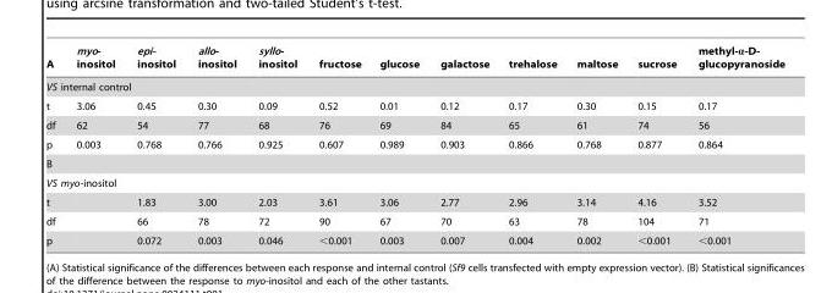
<table><thead><tr><td>A</td><td>myo- inositol</td><td>epi- inositol</td><td>allo- inositol</td><td>syllo- inositol</td><td>fructose</td><td>glucose</td><td>galactose</td><td>trehalose</td><td>maltose</td><td>sucrose</td><td>methyl-α-D- glucopyranoside</td></tr></thead><tbody><tr><td colspan="12">VS internal control</td></tr><tr><td>t</td><td>3.06</td><td>0.45</td><td>0.30</td><td>0.09</td><td>0.52</td><td>0.01</td><td>0.12</td><td>0.17</td><td>0.30</td><td>0.15</td><td>0.17</td></tr><tr><td>df</td><td>62</td><td>54</td><td>77</td><td>68</td><td>76</td><td>69</td><td>84</td><td>65</td><td>61</td><td>74</td><td>56</td></tr><tr><td>p</td><td>0.003</td><td>0.768</td><td>0.766</td><td>0.925</td><td>0.607</td><td>0.989</td><td>0.903</td><td>0.866</td><td>0.768</td><td>0.877</td><td>0.864</td></tr><tr><td colspan="12">B</td></tr><tr><td colspan="12">VS myo-inositol</td></tr><tr><td>t</td><td></td><td>1.83</td><td>3.00</td><td>2.03</td><td>3.61</td><td>3.06</td><td>2.77</td><td>2.96</td><td>3.14</td><td>4.16</td><td>3.52</td></tr><tr><td>df</td><td></td><td>66</td><td>78</td><td>72</td><td>90</td><td>67</td><td>70</td><td>63</td><td>78</td><td>104</td><td>71</td></tr><tr><td>p</td><td></td><td>0.072</td><td>0.003</td><td>0.046</td><td>&lt;0.001</td><td>0.003</td><td>0.007</td><td>0.004</td><td>0.002</td><td>&lt;0.001</td><td>&lt;0.001</td></tr></tbody></table>